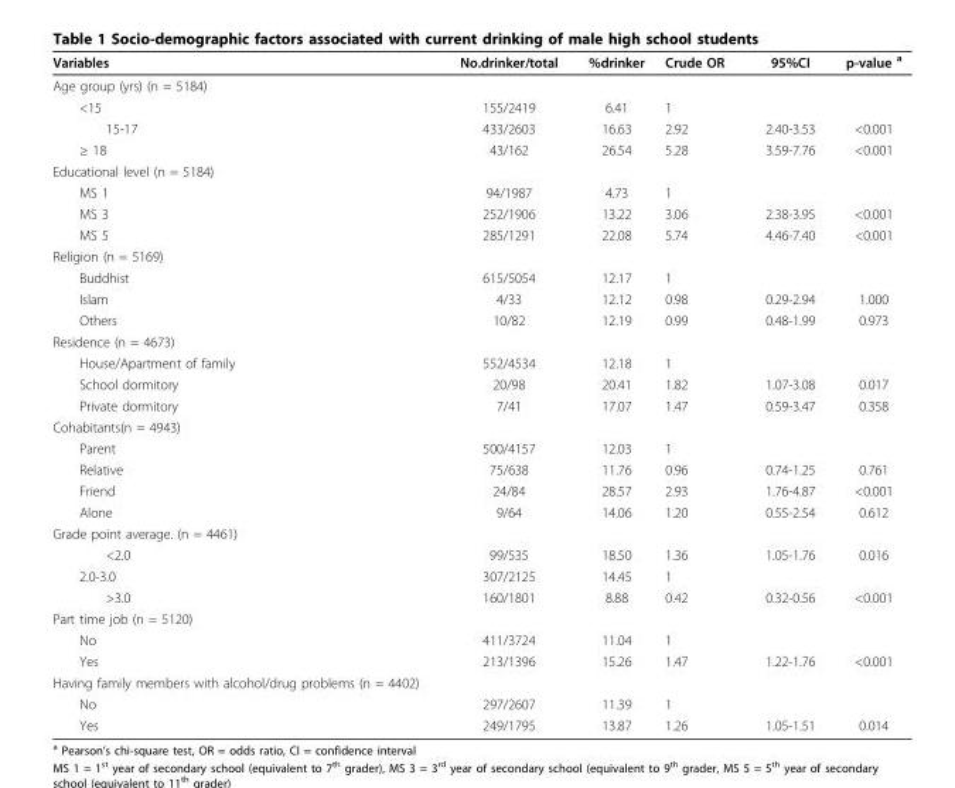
<table><thead><tr><td>Variables</td><td>No.drinker/total</td><td>%drinker</td><td>Crude OR</td><td>95%CI</td><td>p-value <sup>a</sup></td></tr></thead><tbody><tr><td colspan="6">Age group (yrs) (n = 5184)</td></tr><tr><td>&lt;15</td><td>155/2419</td><td>6.41</td><td>1</td><td></td><td></td></tr><tr><td>15-17</td><td>433/2603</td><td>16.63</td><td>2.92</td><td>2.40-3.53</td><td>&lt;0.001</td></tr><tr><td>≥ 18</td><td>43/162</td><td>26.54</td><td>5.28</td><td>3.59-7.76</td><td>&lt;0.001</td></tr><tr><td colspan="6">Educational level (n = 5184)</td></tr><tr><td>MS 1</td><td>94/1987</td><td>4.73</td><td>1</td><td></td><td></td></tr><tr><td>MS 3</td><td>252/1906</td><td>13.22</td><td>3.06</td><td>2.38-3.95</td><td>&lt;0.001</td></tr><tr><td>MS 5</td><td>285/1291</td><td>22.08</td><td>5.74</td><td>4.46-7.40</td><td>&lt;0.001</td></tr><tr><td colspan="6">Religion (n = 5169)</td></tr><tr><td>Buddhist</td><td>615/5054</td><td>12.17</td><td>1</td><td></td><td></td></tr><tr><td>Islam</td><td>4/33</td><td>12.12</td><td>0.98</td><td>0.29-2.94</td><td>1.000</td></tr><tr><td>Others</td><td>10/82</td><td>12.19</td><td>0.99</td><td>0.48-1.99</td><td>0.973</td></tr><tr><td colspan="6">Residence (n = 4673)</td></tr><tr><td>House/Apartment of family</td><td>552/4534</td><td>12.18</td><td>1</td><td></td><td></td></tr><tr><td>School dormitory</td><td>20/98</td><td>20.41</td><td>1.82</td><td>1.07-3.08</td><td>0.017</td></tr><tr><td>Private dormitory</td><td>7/41</td><td>17.07</td><td>1.47</td><td>0.59-3.47</td><td>0.358</td></tr><tr><td colspan="6">Cohabitants(n = 4943)</td></tr><tr><td>Parent</td><td>500/4157</td><td>12.03</td><td>1</td><td></td><td></td></tr><tr><td>Relative</td><td>75/638</td><td>11.76</td><td>0.96</td><td>0.74-1.25</td><td>0.761</td></tr><tr><td>Friend</td><td>24/84</td><td>28.57</td><td>2.93</td><td>1.76-4.87</td><td>&lt;0.001</td></tr><tr><td>Alone</td><td>9/64</td><td>14.06</td><td>1.20</td><td>0.55-2.54</td><td>0.612</td></tr><tr><td colspan="6">Grade point average. (n = 4461)</td></tr><tr><td>&lt;2.0</td><td>99/535</td><td>18.50</td><td>1.36</td><td>1.05-1.76</td><td>0.016</td></tr><tr><td>2.0-3.0</td><td>307/2125</td><td>14.45</td><td>1</td><td></td><td></td></tr><tr><td>&gt;3.0</td><td>160/1801</td><td>8.88</td><td>0.42</td><td>0.32-0.56</td><td>&lt;0.001</td></tr><tr><td colspan="6">Part time job (n = 5120)</td></tr><tr><td>No</td><td>411/3724</td><td>11.04</td><td>1</td><td></td><td></td></tr><tr><td>Yes</td><td>213/1396</td><td>15.26</td><td>1.47</td><td>1.22-1.76</td><td>&lt;0.001</td></tr><tr><td colspan="6">Having family members with alcohol/drug problems (n = 4402)</td></tr><tr><td>No</td><td>297/2607</td><td>11.39</td><td>1</td><td></td><td></td></tr><tr><td>Yes</td><td>249/1795</td><td>13.87</td><td>1.26</td><td>1.05-1.51</td><td>0.014</td></tr></tbody></table>